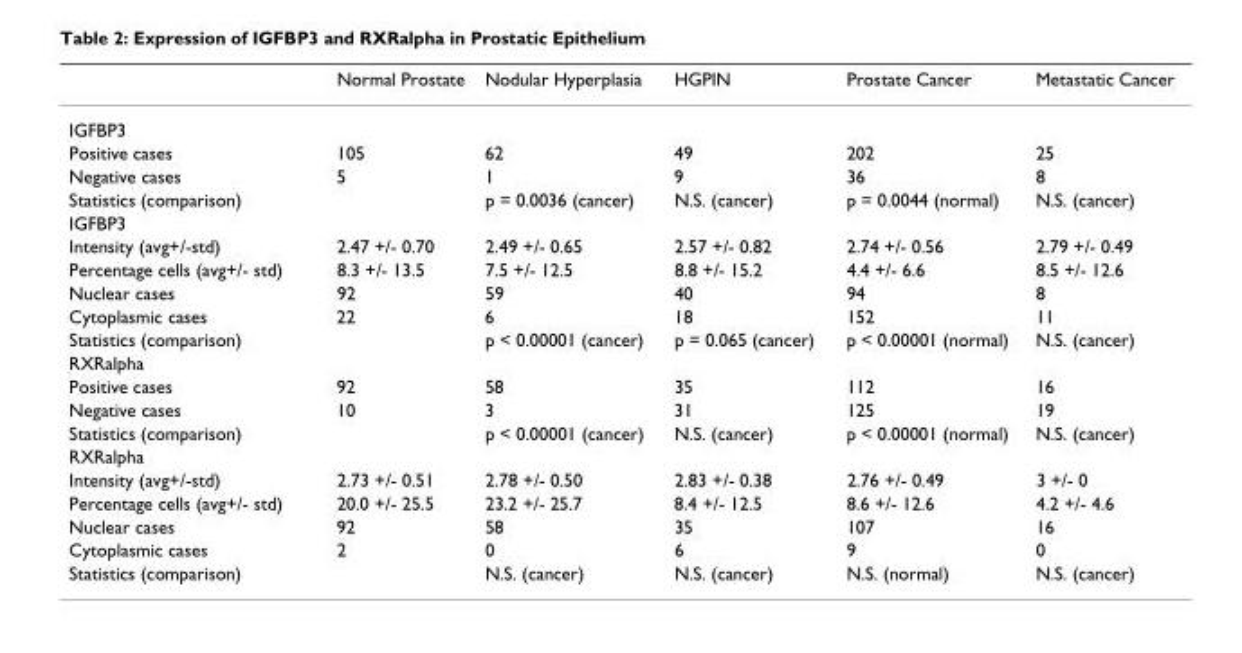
<table><thead><tr><td></td><td>Normal Prostate</td><td>Nodular Hyperplasia</td><td>HGPIN</td><td>Prostate Cancer</td><td>Metastatic Cancer</td></tr></thead><tbody><tr><td colspan="6">IGFBP3</td></tr><tr><td>Positive cases</td><td>105</td><td>62</td><td>49</td><td>202</td><td>25</td></tr><tr><td>Negative cases</td><td>5</td><td>1</td><td>9</td><td>36</td><td>8</td></tr><tr><td>Statistics (comparison)</td><td></td><td>p = 0.0036 (cancer)</td><td>N.S. (cancer)</td><td>p = 0.0044 (normal)</td><td>N.S. (cancer)</td></tr><tr><td colspan="6">IGFBP3</td></tr><tr><td>Intensity (avg+/-std)</td><td>2.47 +/- 0.70</td><td>2.49 +/- 0.65</td><td>2.57 +/- 0.82</td><td>2.74 +/- 0.56</td><td>2.79 +/- 0.49</td></tr><tr><td>Percentage cells (avg+/- std)</td><td>8.3 +/- 13.5</td><td>7.5 +/- 12.5</td><td>8.8 +/- 15.2</td><td>4.4 +/- 6.6</td><td>8.5 +/- 12.6</td></tr><tr><td>Nuclear cases</td><td>92</td><td>59</td><td>40</td><td>94</td><td>8</td></tr><tr><td>Cytoplasmic cases</td><td>22</td><td>6</td><td>18</td><td>152</td><td>11</td></tr><tr><td>Statistics (comparison)</td><td></td><td>p &lt; 0.00001 (cancer)</td><td>p = 0.065 (cancer)</td><td>p &lt; 0.00001 (normal)</td><td>N.S. (cancer)</td></tr><tr><td colspan="6">RXRalpha</td></tr><tr><td>Positive cases</td><td>92</td><td>58</td><td>35</td><td>112</td><td>16</td></tr><tr><td>Negative cases</td><td>10</td><td>3</td><td>31</td><td>125</td><td>19</td></tr><tr><td>Statistics (comparison)</td><td></td><td>p &lt; 0.00001 (cancer)</td><td>N.S. (cancer)</td><td>p &lt; 0.00001 (normal)</td><td>N.S. (cancer)</td></tr><tr><td colspan="6">RXRalpha</td></tr><tr><td>Intensity (avg+/-std)</td><td>2.73 +/- 0.51</td><td>2.78 +/- 0.50</td><td>2.83 +/- 0.38</td><td>2.76 +/- 0.49</td><td>3 +/- 0</td></tr><tr><td>Percentage cells (avg+/- std)</td><td>20.0 +/- 25.5</td><td>23.2 +/- 25.7</td><td>8.4 +/- 12.5</td><td>8.6 +/- 12.6</td><td>4.2 +/- 4.6</td></tr><tr><td>Nuclear cases</td><td>92</td><td>58</td><td>35</td><td>107</td><td>16</td></tr><tr><td>Cytoplasmic cases</td><td>2</td><td>0</td><td>6</td><td>9</td><td>0</td></tr><tr><td>Statistics (comparison)</td><td></td><td>N.S. (cancer)</td><td>N.S. (cancer)</td><td>N.S. (normal)</td><td>N.S. (cancer)</td></tr></tbody></table>